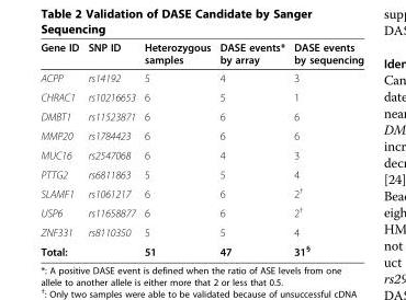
<table><thead><tr><td>Gene ID</td><td>SNP ID</td><td>Heterozygous samples</td><td>DASE events* by array</td><td>DASE events by sequencing</td></tr></thead><tbody><tr><td>ACPP</td><td>rs14192</td><td>5</td><td>4</td><td>3</td></tr><tr><td>CHRAC1</td><td>rs10216653</td><td>6</td><td>5</td><td>1</td></tr><tr><td>DMBT1</td><td>rs11523871</td><td>6</td><td>6</td><td>6</td></tr><tr><td>MMP20</td><td>rs1784423</td><td>6</td><td>6</td><td>6</td></tr><tr><td>MUC16</td><td>rs2547068</td><td>6</td><td>4</td><td>3</td></tr><tr><td>PTTG2</td><td>rs6811863</td><td>5</td><td>5</td><td>4</td></tr><tr><td>SLAMF1</td><td>rs1061217</td><td>6</td><td>6</td><td>2<sup>†</sup></td></tr><tr><td>USP6</td><td>rs11658877</td><td>6</td><td>6</td><td>2<sup>†</sup></td></tr><tr><td>ZNF331</td><td>rs8110350</td><td>5</td><td>5</td><td>4</td></tr><tr><td>Total:</td><td></td><td>51</td><td>47</td><td>31<sup>§</sup></td></tr></tbody></table>